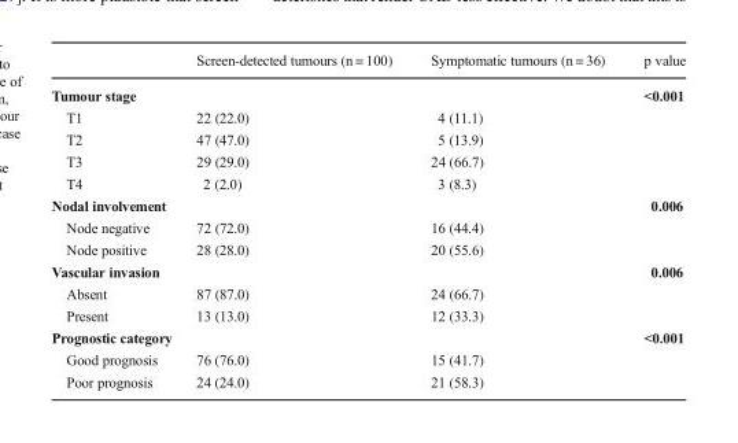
<table><thead><tr><td></td><td>Screen-detected tumours (n = 100)</td><td>Symptomatic tumours (n = 36)</td><td>p value</td></tr></thead><tbody><tr><td colspan="3">Tumour stage</td><td>&lt;0.001</td></tr><tr><td>T1</td><td>22 (22.0)</td><td>4 (11.1)</td><td></td></tr><tr><td>T2</td><td>47 (47.0)</td><td>5 (13.9)</td><td></td></tr><tr><td>T3</td><td>29 (29.0)</td><td>24 (66.7)</td><td></td></tr><tr><td>T4</td><td>2 (2.0)</td><td>3 (8.3)</td><td></td></tr><tr><td colspan="3">Nodal involvement</td><td>0.006</td></tr><tr><td>Node negative</td><td>72 (72.0)</td><td>16 (44.4)</td><td></td></tr><tr><td>Node positive</td><td>28 (28.0)</td><td>20 (55.6)</td><td></td></tr><tr><td colspan="3">Vascular invasion</td><td>0.006</td></tr><tr><td>Absent</td><td>87 (87.0)</td><td>24 (66.7)</td><td></td></tr><tr><td>Present</td><td>13 (13.0)</td><td>12 (33.3)</td><td></td></tr><tr><td colspan="3">Prognostic category</td><td>&lt;0.001</td></tr><tr><td>Good prognosis</td><td>76 (76.0)</td><td>15 (41.7)</td><td></td></tr><tr><td>Poor prognosis</td><td>24 (24.0)</td><td>21 (58.3)</td><td></td></tr></tbody></table>